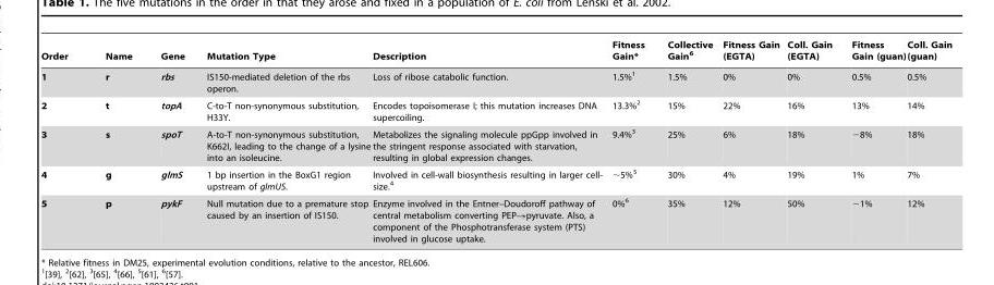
<table><thead><tr><td>Order</td><td>Name</td><td>Gene</td><td>Mutation Type</td><td>Description</td><td>Fitness Gain*</td><td>Collective Gain<sup>6</sup></td><td>Fitness Gain (EGTA)</td><td>Coll. Gain (EGTA)</td><td>Fitness Gain (guan)</td><td>Coll. Gain (guan)</td></tr></thead><tbody><tr><td>1</td><td>r</td><td>rbs</td><td>IS150-mediated deletion of the rbs operon.</td><td>Loss of ribose catabolic function.</td><td>1.5%<sup>1</sup></td><td>1.5%</td><td>0%</td><td>0%</td><td>0.5%</td><td>0.5%</td></tr><tr><td>2</td><td>t</td><td>topA</td><td>C-to-T non-synonymous substitution, H33Y.</td><td>Encodes topoisomerase I; this mutation increases DNA supercoiling.</td><td>13.3%<sup>2</sup></td><td>15%</td><td>22%</td><td>16%</td><td>13%</td><td>14%</td></tr><tr><td>3</td><td>s</td><td>spoT</td><td>A-to-T non-synonymous substitution, K662I, leading to the change of a lysine into an isoleucine.</td><td>Metabolizes the signaling molecule ppGpp involved in the stringent response associated with starvation, resulting in global expression changes.</td><td>9.4%<sup>3</sup></td><td>25%</td><td>6%</td><td>18%</td><td>−8%</td><td>18%</td></tr><tr><td>4</td><td>g</td><td>glmS</td><td>1 bp insertion in the BoxG1 region upstream of glmUS.</td><td>Involved in cell-wall biosynthesis resulting in larger cell- size.<sup>4</sup></td><td>∼5%<sup>5</sup></td><td>30%</td><td>4%</td><td>19%</td><td>1%</td><td>7%</td></tr><tr><td>5</td><td>p</td><td>pykF</td><td>Null mutation due to a premature stop caused by an insertion of IS150.</td><td>Enzyme involved in the Entner–Doudoroff pathway of central metabolism converting PEP→pyruvate. Also, a component of the Phosphotransferase system (PTS) involved in glucose uptake.</td><td>0%<sup>6</sup></td><td>35%</td><td>12%</td><td>50%</td><td>−1%</td><td>12%</td></tr></tbody></table>